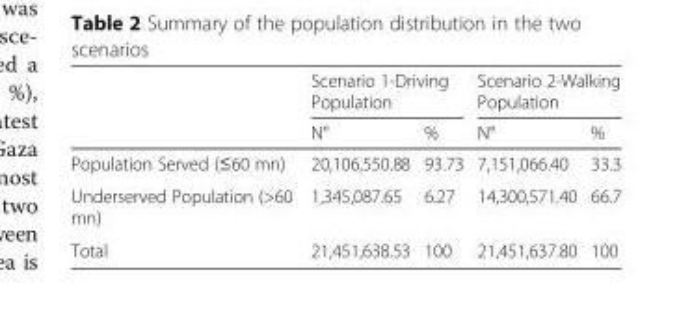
<table><thead><tr><td rowspan="3"></td><td rowspan="2" colspan="2">Scenario 1-Driving Population</td><td rowspan="2" colspan="2">Scenario 2-Walking Population</td></tr><tr></tr><tr><td>N°</td><td>%</td><td>N°</td><td>%</td></tr></thead><tbody><tr><td>Population Served (≤60 mn)</td><td>20,106,550.88</td><td>93.73</td><td>7,151,066.40</td><td>33.3</td></tr><tr><td>Underserved Population (&gt;60 mn)</td><td>1,345,087.65</td><td>6.27</td><td>14,300,571.40</td><td>66.7</td></tr><tr><td>Total</td><td>21,451,638.53</td><td>100</td><td>21,451,637.80</td><td>100</td></tr></tbody></table>